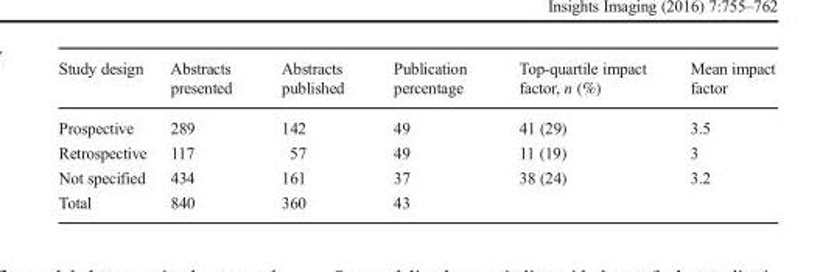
<table><thead><tr><td>Study design</td><td>Abstracts presented</td><td>Abstracts published</td><td>Publication percentage</td><td>Top-quartile impact factor, n (%)</td><td>Mean impact factor</td></tr></thead><tbody><tr><td>Prospective</td><td>289</td><td>142</td><td>49</td><td>41 (29)</td><td>3.5</td></tr><tr><td>Retrospective</td><td>117</td><td>57</td><td>49</td><td>11 (19)</td><td>3</td></tr><tr><td>Not specified</td><td>434</td><td>161</td><td>37</td><td>38 (24)</td><td>3.2</td></tr><tr><td>Total</td><td>840</td><td>360</td><td>43</td><td></td><td></td></tr></tbody></table>